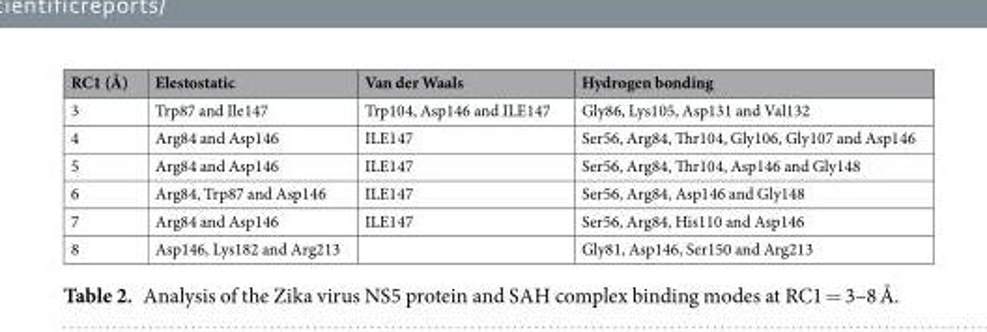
<table><thead><tr><td>RC1 (Å)</td><td>Elestostatic</td><td>Van der Waals</td><td>Hydrogen bonding</td></tr></thead><tbody><tr><td>3</td><td>Trp87 and Ile147</td><td>Trp104, Asp146 and ILE147</td><td>Gly86, Lys105, Asp131 and Val132</td></tr><tr><td>4</td><td>Arg84 and Asp146</td><td>ILE147</td><td>Ser56, Arg84, Thr104, Gly106, Gly107 and Asp146</td></tr><tr><td>5</td><td>Arg84 and Asp146</td><td>ILE147</td><td>Ser56, Arg84, Thr104, Asp146 and Gly148</td></tr><tr><td>6</td><td>Arg84, Trp87 and Asp146</td><td>ILE147</td><td>Ser56, Arg84, Asp146 and Gly148</td></tr><tr><td>7</td><td>Arg84 and Asp146</td><td>ILE147</td><td>Ser56, Arg84, His110 and Asp146</td></tr><tr><td>8</td><td>Asp146, Lys182 and Arg213</td><td></td><td>Gly81, Asp146, Ser150 and Arg213</td></tr></tbody></table>